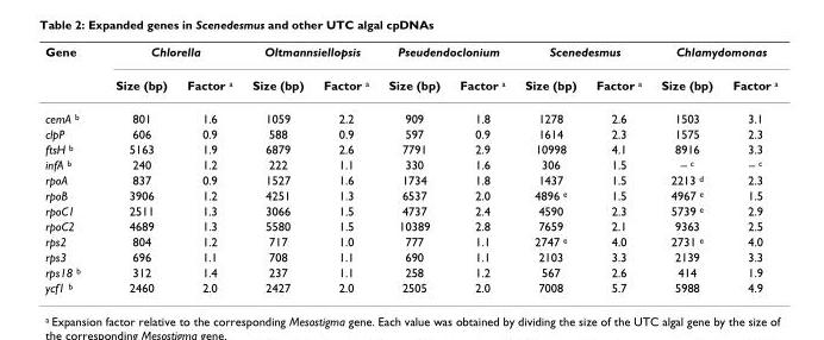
<table><thead><tr><td rowspan="2">Gene</td><td colspan="2">Chlorella</td><td colspan="2">Oltmannsiellopsis</td><td colspan="2">Pseudendoclonium</td><td colspan="2">Scenedesmus</td><td colspan="2">Chlamydomonas</td></tr><tr><td>Size (bp)</td><td>Factor <sup>a</sup></td><td>Size (bp)</td><td>Factor <sup>a</sup></td><td>Size (bp)</td><td>Factor <sup>a</sup></td><td>Size (bp)</td><td>Factor <sup>a</sup></td><td>Size (bp)</td><td>Factor <sup>a</sup></td></tr></thead><tbody><tr><td>cemA <sup>b</sup></td><td>801</td><td>1.6</td><td>1059</td><td>2.2</td><td>909</td><td>1.8</td><td>1278</td><td>2.6</td><td>1503</td><td>3.1</td></tr><tr><td>clpP</td><td>606</td><td>0.9</td><td>588</td><td>0.9</td><td>597</td><td>0.9</td><td>1614</td><td>2.3</td><td>1575</td><td>2.3</td></tr><tr><td>ftsH <sup>b</sup></td><td>5163</td><td>1.9</td><td>6879</td><td>2.6</td><td>7791</td><td>2.9</td><td>10998</td><td>4.1</td><td>8916</td><td>3.3</td></tr><tr><td>infA <sup>b</sup></td><td>240</td><td>1.2</td><td>222</td><td>1.1</td><td>330</td><td>1.6</td><td>306</td><td>1.5</td><td>– <sup>c</sup></td><td>– <sup>c</sup></td></tr><tr><td>rpoA</td><td>837</td><td>0.9</td><td>1527</td><td>1.6</td><td>1734</td><td>1.8</td><td>1437</td><td>1.5</td><td>2213 <sup>d</sup></td><td>2.3</td></tr><tr><td>rpoB</td><td>3906</td><td>1.2</td><td>4251</td><td>1.3</td><td>6537</td><td>2.0</td><td>4896 <sup>e</sup></td><td>1.5</td><td>4967 <sup>e</sup></td><td>1.5</td></tr><tr><td>rpoC1</td><td>2511</td><td>1.3</td><td>3066</td><td>1.5</td><td>4737</td><td>2.4</td><td>4590</td><td>2.3</td><td>5739 <sup>e</sup></td><td>2.9</td></tr><tr><td>rpoC2</td><td>4689</td><td>1.3</td><td>5580</td><td>1.5</td><td>10389</td><td>2.8</td><td>7659</td><td>2.1</td><td>9363</td><td>2.5</td></tr><tr><td>rps2</td><td>804</td><td>1.2</td><td>717</td><td>1.0</td><td>777</td><td>1.1</td><td>2747 <sup>e</sup></td><td>4.0</td><td>2731 <sup>e</sup></td><td>4.0</td></tr><tr><td>rps3</td><td>696</td><td>1.1</td><td>708</td><td>1.1</td><td>690</td><td>1.1</td><td>2103</td><td>3.3</td><td>2139</td><td>3.3</td></tr><tr><td>rps18 <sup>b</sup></td><td>312</td><td>1.4</td><td>237</td><td>1.1</td><td>258</td><td>1.2</td><td>567</td><td>2.6</td><td>414</td><td>1.9</td></tr><tr><td>ycf1 <sup>b</sup></td><td>2460</td><td>2.0</td><td>2427</td><td>2.0</td><td>2505</td><td>2.0</td><td>7008</td><td>5.7</td><td>5988</td><td>4.9</td></tr></tbody></table>